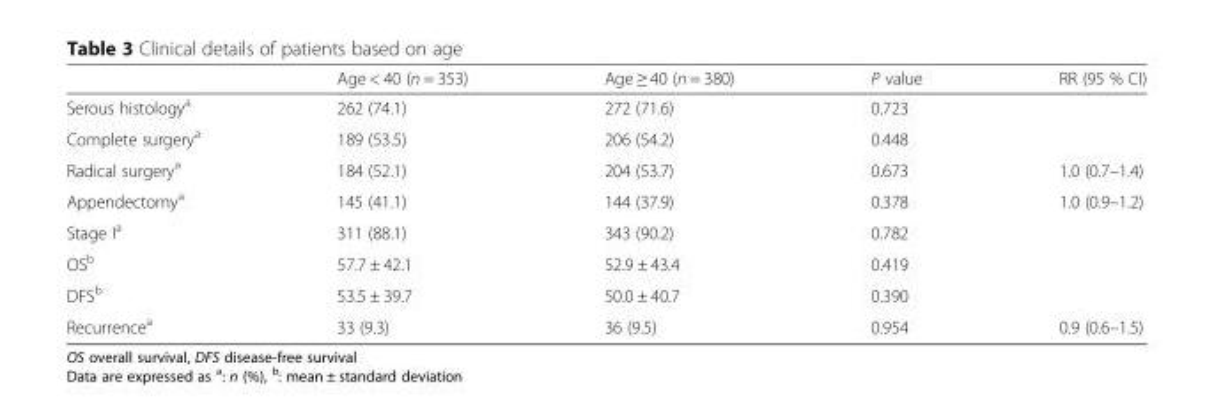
<table><thead><tr><td></td><td>Age &lt; 40 (n = 353)</td><td>Age ≥ 40 (n = 380)</td><td>P value</td><td>RR (95 % CI)</td></tr></thead><tbody><tr><td>Serous histology<sup>a</sup></td><td>262 (74.1)</td><td>272 (71.6)</td><td>0.723</td><td></td></tr><tr><td>Complete surgery<sup>a</sup></td><td>189 (53.5)</td><td>206 (54.2)</td><td>0.448</td><td></td></tr><tr><td>Radical surgery<sup>a</sup></td><td>184 (52.1)</td><td>204 (53.7)</td><td>0.673</td><td>1.0 (0.7–1.4)</td></tr><tr><td>Appendectomy<sup>a</sup></td><td>145 (41.1)</td><td>144 (37.9)</td><td>0.378</td><td>1.0 (0.9–1.2)</td></tr><tr><td>Stage I<sup>a</sup></td><td>311 (88.1)</td><td>343 (90.2)</td><td>0.782</td><td></td></tr><tr><td>OS<sup>b</sup></td><td>57.7 ± 42.1</td><td>52.9 ± 43.4</td><td>0.419</td><td></td></tr><tr><td>DFS<sup>b</sup></td><td>53.5 ± 39.7</td><td>50.0 ± 40.7</td><td>0.390</td><td></td></tr><tr><td>Recurrence<sup>a</sup></td><td>33 (9.3)</td><td>36 (9.5)</td><td>0.954</td><td>0.9 (0.6–1.5)</td></tr></tbody></table>